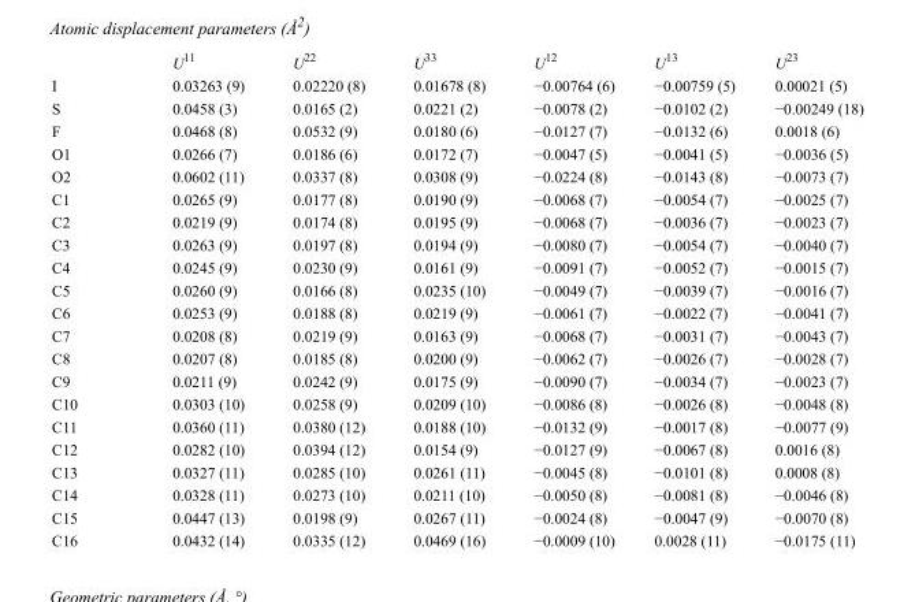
<table><thead><tr><td></td><td>U<sup>11</sup></td><td>U<sup>22</sup></td><td>U<sup>33</sup></td><td>U<sup>12</sup></td><td>U<sup>13</sup></td><td>U<sup>23</sup></td></tr></thead><tbody><tr><td>I</td><td>0.03263 (9)</td><td>0.02220 (8)</td><td>0.01678 (8)</td><td>−0.00764 (6)</td><td>−0.00759 (5)</td><td>0.00021 (5)</td></tr><tr><td>S</td><td>0.0458 (3)</td><td>0.0165 (2)</td><td>0.0221 (2)</td><td>−0.0078 (2)</td><td>−0.0102 (2)</td><td>−0.00249 (18)</td></tr><tr><td>F</td><td>0.0468 (8)</td><td>0.0532 (9)</td><td>0.0180 (6)</td><td>−0.0127 (7)</td><td>−0.0132 (6)</td><td>0.0018 (6)</td></tr><tr><td>O1</td><td>0.0266 (7)</td><td>0.0186 (6)</td><td>0.0172 (7)</td><td>−0.0047 (5)</td><td>−0.0041 (5)</td><td>−0.0036 (5)</td></tr><tr><td>O2</td><td>0.0602 (11)</td><td>0.0337 (8)</td><td>0.0308 (9)</td><td>−0.0224 (8)</td><td>−0.0143 (8)</td><td>−0.0073 (7)</td></tr><tr><td>C1</td><td>0.0265 (9)</td><td>0.0177 (8)</td><td>0.0190 (9)</td><td>−0.0068 (7)</td><td>−0.0054 (7)</td><td>−0.0025 (7)</td></tr><tr><td>C2</td><td>0.0219 (9)</td><td>0.0174 (8)</td><td>0.0195 (9)</td><td>−0.0068 (7)</td><td>−0.0036 (7)</td><td>−0.0023 (7)</td></tr><tr><td>C3</td><td>0.0263 (9)</td><td>0.0197 (8)</td><td>0.0194 (9)</td><td>−0.0080 (7)</td><td>−0.0054 (7)</td><td>−0.0040 (7)</td></tr><tr><td>C4</td><td>0.0245 (9)</td><td>0.0230 (9)</td><td>0.0161 (9)</td><td>−0.0091 (7)</td><td>−0.0052 (7)</td><td>−0.0015 (7)</td></tr><tr><td>C5</td><td>0.0260 (9)</td><td>0.0166 (8)</td><td>0.0235 (10)</td><td>−0.0049 (7)</td><td>−0.0039 (7)</td><td>−0.0016 (7)</td></tr><tr><td>C6</td><td>0.0253 (9)</td><td>0.0188 (8)</td><td>0.0219 (9)</td><td>−0.0061 (7)</td><td>−0.0022 (7)</td><td>−0.0041 (7)</td></tr><tr><td>C7</td><td>0.0208 (8)</td><td>0.0219 (9)</td><td>0.0163 (9)</td><td>−0.0068 (7)</td><td>−0.0031 (7)</td><td>−0.0043 (7)</td></tr><tr><td>C8</td><td>0.0207 (8)</td><td>0.0185 (8)</td><td>0.0200 (9)</td><td>−0.0062 (7)</td><td>−0.0026 (7)</td><td>−0.0028 (7)</td></tr><tr><td>C9</td><td>0.0211 (9)</td><td>0.0242 (9)</td><td>0.0175 (9)</td><td>−0.0090 (7)</td><td>−0.0034 (7)</td><td>−0.0023 (7)</td></tr><tr><td>C10</td><td>0.0303 (10)</td><td>0.0258 (9)</td><td>0.0209 (10)</td><td>−0.0086 (8)</td><td>−0.0026 (8)</td><td>−0.0048 (8)</td></tr><tr><td>C11</td><td>0.0360 (11)</td><td>0.0380 (12)</td><td>0.0188 (10)</td><td>−0.0132 (9)</td><td>−0.0017 (8)</td><td>−0.0077 (9)</td></tr><tr><td>C12</td><td>0.0282 (10)</td><td>0.0394 (12)</td><td>0.0154 (9)</td><td>−0.0127 (9)</td><td>−0.0067 (8)</td><td>0.0016 (8)</td></tr><tr><td>C13</td><td>0.0327 (11)</td><td>0.0285 (10)</td><td>0.0261 (11)</td><td>−0.0045 (8)</td><td>−0.0101 (8)</td><td>0.0008 (8)</td></tr><tr><td>C14</td><td>0.0328 (11)</td><td>0.0273 (10)</td><td>0.0211 (10)</td><td>−0.0050 (8)</td><td>−0.0081 (8)</td><td>−0.0046 (8)</td></tr><tr><td>C15</td><td>0.0447 (13)</td><td>0.0198 (9)</td><td>0.0267 (11)</td><td>−0.0024 (8)</td><td>−0.0047 (9)</td><td>−0.0070 (8)</td></tr><tr><td>C16</td><td>0.0432 (14)</td><td>0.0335 (12)</td><td>0.0469 (16)</td><td>−0.0009 (10)</td><td>0.0028 (11)</td><td>−0.0175 (11)</td></tr></tbody></table>